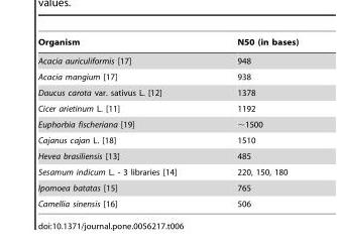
<table><thead><tr><td>Organism</td><td>N50 (in bases)</td></tr></thead><tbody><tr><td>Acacia auriculiformis [17]</td><td>948</td></tr><tr><td>Acacia mangium [17]</td><td>938</td></tr><tr><td>Daucus carota var. sativus L. [12]</td><td>1378</td></tr><tr><td>Cicer arietinum L. [11]</td><td>1192</td></tr><tr><td>Euphorbia fischeriana [19]</td><td>∼1500</td></tr><tr><td>Cajanus cajan L. [18]</td><td>1510</td></tr><tr><td>Hevea brasiliensis [13]</td><td>485</td></tr><tr><td>Sesamum indicum L. - 3 libraries [14]</td><td>220, 150, 180</td></tr><tr><td>Ipomoea batatas [15]</td><td>765</td></tr><tr><td>Camellia sinensis [16]</td><td>506</td></tr></tbody></table>